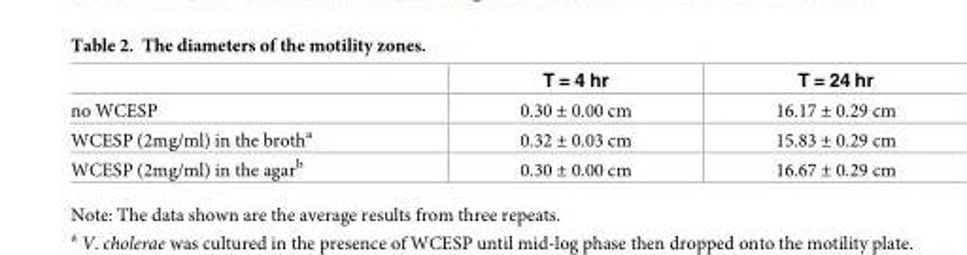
<table><thead><tr><td></td><td>T = 4 hr</td><td>T = 24 hr</td></tr></thead><tbody><tr><td>no WCESP</td><td>0.30 ± 0.00 cm</td><td>16.17 ± 0.29 cm</td></tr><tr><td>WCESP (2mg/ml) in the broth<sup>a</sup></td><td>0.32 ± 0.03 cm</td><td>15.83 ± 0.29 cm</td></tr><tr><td>WCESP (2mg/ml) in the agar<sup>b</sup></td><td>0.30 ± 0.00 cm</td><td>16.67 ± 0.29 cm</td></tr></tbody></table>